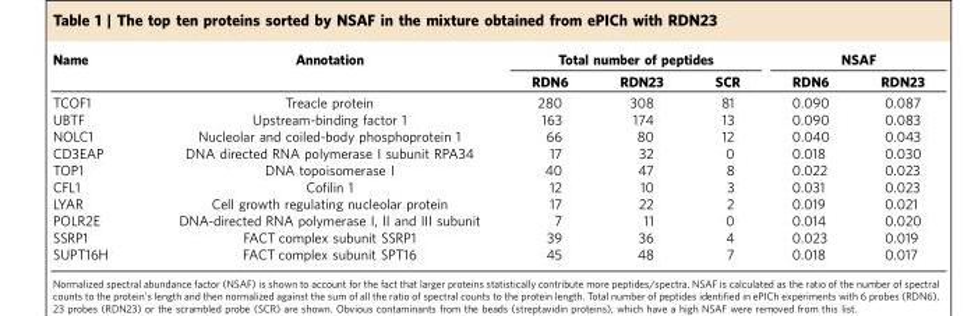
<table><thead><tr><td rowspan="2">Name</td><td rowspan="2">Annotation</td><td colspan="3">Total number of peptides</td><td colspan="2">NSAF</td></tr><tr><td>RDN6</td><td>RDN23</td><td>SCR</td><td>RDN6</td><td>RDN23</td></tr></thead><tbody><tr><td>TCOF1</td><td>Treacle protein</td><td>280</td><td>308</td><td>81</td><td>0.090</td><td>0.087</td></tr><tr><td>UBTF</td><td>Upstream-binding factor 1</td><td>163</td><td>174</td><td>13</td><td>0.090</td><td>0.083</td></tr><tr><td>NOLC1</td><td>Nucleolar and coiled-body phosphoprotein 1</td><td>66</td><td>80</td><td>12</td><td>0.040</td><td>0.043</td></tr><tr><td>CD3EAP</td><td>DNA directed RNA polymerase I subunit RPA34</td><td>17</td><td>32</td><td>0</td><td>0.018</td><td>0.030</td></tr><tr><td>TOP1</td><td>DNA topoisomerase I</td><td>40</td><td>47</td><td>8</td><td>0.022</td><td>0.023</td></tr><tr><td>CFL1</td><td>Cofilin 1</td><td>12</td><td>10</td><td>3</td><td>0.031</td><td>0.023</td></tr><tr><td>LYAR</td><td>Cell growth regulating nucleolar protein</td><td>17</td><td>22</td><td>2</td><td>0.019</td><td>0.021</td></tr><tr><td>POLR2E</td><td>DNA-directed RNA polymerase I, II and III subunit</td><td>7</td><td>11</td><td>0</td><td>0.014</td><td>0.020</td></tr><tr><td>SSRP1</td><td>FACT complex subunit SSRP1</td><td>39</td><td>36</td><td>4</td><td>0.023</td><td>0.019</td></tr><tr><td>SUPT16H</td><td>FACT complex subunit SPT16</td><td>45</td><td>48</td><td>7</td><td>0.018</td><td>0.017</td></tr></tbody></table>